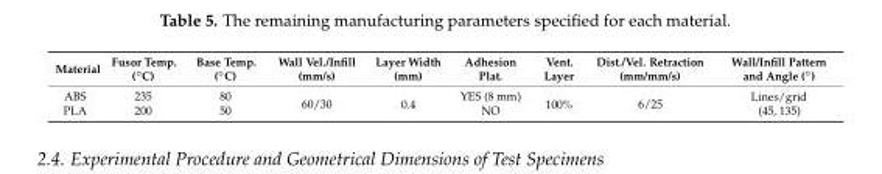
<table><thead><tr><td>Material</td><td>Fusor Temp. (◦C)</td><td>Base Temp. (◦C)</td><td>Wall Vel./Infill (mm/s)</td><td>Layer Width (mm)</td><td>Adhesion Plat.</td><td>Vent. Layer</td><td>Dist./Vel. Retraction (mm/mm/s)</td><td>Wall/Infill Pattern and Angle (◦)</td></tr></thead><tbody><tr><td>ABS</td><td>235</td><td>80</td><td rowspan="2">60/30</td><td rowspan="2">0.4</td><td>YES (8 mm)</td><td rowspan="2">100%</td><td rowspan="2">6/25</td><td rowspan="2">Lines/grid (45, 135)</td></tr><tr><td>PLA</td><td>200</td><td>50</td><td>NO</td></tr></tbody></table>